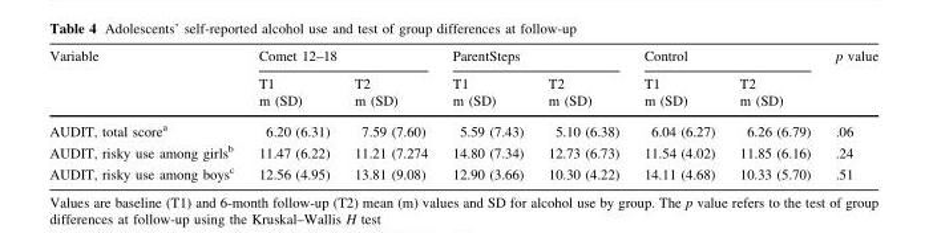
<table><thead><tr><td rowspan="3">Variable</td><td colspan="2">Comet 12–18</td><td colspan="2">ParentSteps</td><td colspan="2">Control</td><td rowspan="3">p value</td></tr><tr><td rowspan="2">T1 m (SD)</td><td rowspan="2">T2 m (SD)</td><td rowspan="2">T1 m (SD)</td><td rowspan="2">T2 m (SD)</td><td rowspan="2">T1 m (SD)</td><td rowspan="2">T2 m (SD)</td></tr><tr></tr></thead><tbody><tr><td>AUDIT, total score<sup>a</sup></td><td>6.20 (6.31)</td><td>7.59 (7.60)</td><td>5.59 (7.43)</td><td>5.10 (6.38)</td><td>6.04 (6.27)</td><td>6.26 (6.79)</td><td>.06</td></tr><tr><td>AUDIT, risky use among girls<sup>b</sup></td><td>11.47 (6.22)</td><td>11.21 (7.274</td><td>14.80 (7.34)</td><td>12.73 (6.73)</td><td>11.54 (4.02)</td><td>11.85 (6.16)</td><td>.24</td></tr><tr><td>AUDIT, risky use among boys<sup>c</sup></td><td>12.56 (4.95)</td><td>13.81 (9.08)</td><td>12.90 (3.66)</td><td>10.30 (4.22)</td><td>14.11 (4.68)</td><td>10.33 (5.70)</td><td>.51</td></tr></tbody></table>